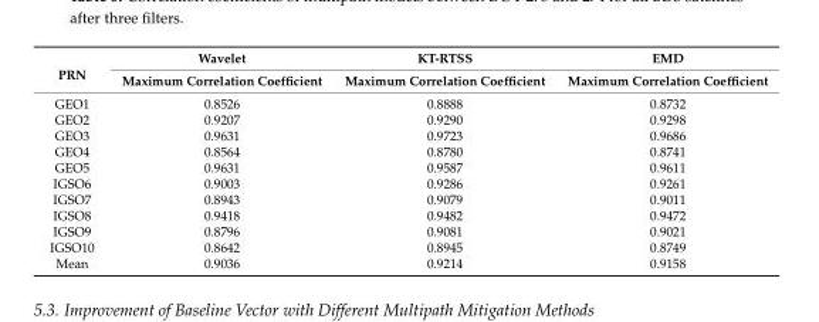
<table><thead><tr><td rowspan="2">PRN</td><td rowspan="2">Wavelet Maximum Correlation Coefficient</td><td rowspan="2">KT-RTSS Maximum Correlation Coefficient</td><td rowspan="2">EMD Maximum Correlation Coefficient</td></tr><tr></tr></thead><tbody><tr><td>GEO1</td><td>0.8526</td><td>0.8888</td><td>0.8732</td></tr><tr><td>GEO2</td><td>0.9207</td><td>0.9290</td><td>0.9298</td></tr><tr><td>GEO3</td><td>0.9631</td><td>0.9723</td><td>0.9686</td></tr><tr><td>GEO4</td><td>0.8564</td><td>0.8780</td><td>0.8741</td></tr><tr><td>GEO5</td><td>0.9631</td><td>0.9587</td><td>0.9611</td></tr><tr><td>IGSO6</td><td>0.9003</td><td>0.9286</td><td>0.9261</td></tr><tr><td>IGSO7</td><td>0.8943</td><td>0.9079</td><td>0.9011</td></tr><tr><td>IGSO8</td><td>0.9418</td><td>0.9482</td><td>0.9472</td></tr><tr><td>IGSO9</td><td>0.8796</td><td>0.9081</td><td>0.9021</td></tr><tr><td>IGSO10</td><td>0.8642</td><td>0.8945</td><td>0.8749</td></tr><tr><td>Mean</td><td>0.9036</td><td>0.9214</td><td>0.9158</td></tr></tbody></table>